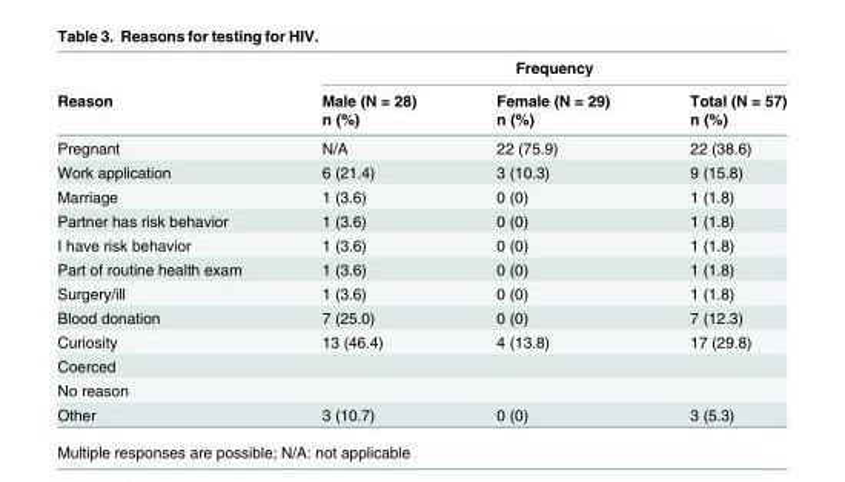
<table><thead><tr><td rowspan="3">Reason</td><td colspan="3">Frequency</td></tr><tr><td rowspan="2">Male (N = 28) n (%)</td><td rowspan="2">Female (N = 29) n (%)</td><td rowspan="2">Total (N = 57) n (%)</td></tr><tr></tr></thead><tbody><tr><td>Pregnant</td><td>N/A</td><td>22 (75.9)</td><td>22 (38.6)</td></tr><tr><td>Work application</td><td>6 (21.4)</td><td>3 (10.3)</td><td>9 (15.8)</td></tr><tr><td>Marriage</td><td>1 (3.6)</td><td>0 (0)</td><td>1 (1.8)</td></tr><tr><td>Partner has risk behavior</td><td>1 (3.6)</td><td>0 (0)</td><td>1 (1.8)</td></tr><tr><td>I have risk behavior</td><td>1 (3.6)</td><td>0 (0)</td><td>1 (1.8)</td></tr><tr><td>Part of routine health exam</td><td>1 (3.6)</td><td>0 (0)</td><td>1 (1.8)</td></tr><tr><td>Surgery/ill</td><td>1 (3.6)</td><td>0 (0)</td><td>1 (1.8)</td></tr><tr><td>Blood donation</td><td>7 (25.0)</td><td>0 (0)</td><td>7 (12.3)</td></tr><tr><td>Curiosity</td><td>13 (46.4)</td><td>4 (13.8)</td><td>17 (29.8)</td></tr><tr><td colspan="4">Coerced</td></tr><tr><td colspan="4">No reason</td></tr><tr><td>Other</td><td>3 (10.7)</td><td>0 (0)</td><td>3 (5.3)</td></tr></tbody></table>